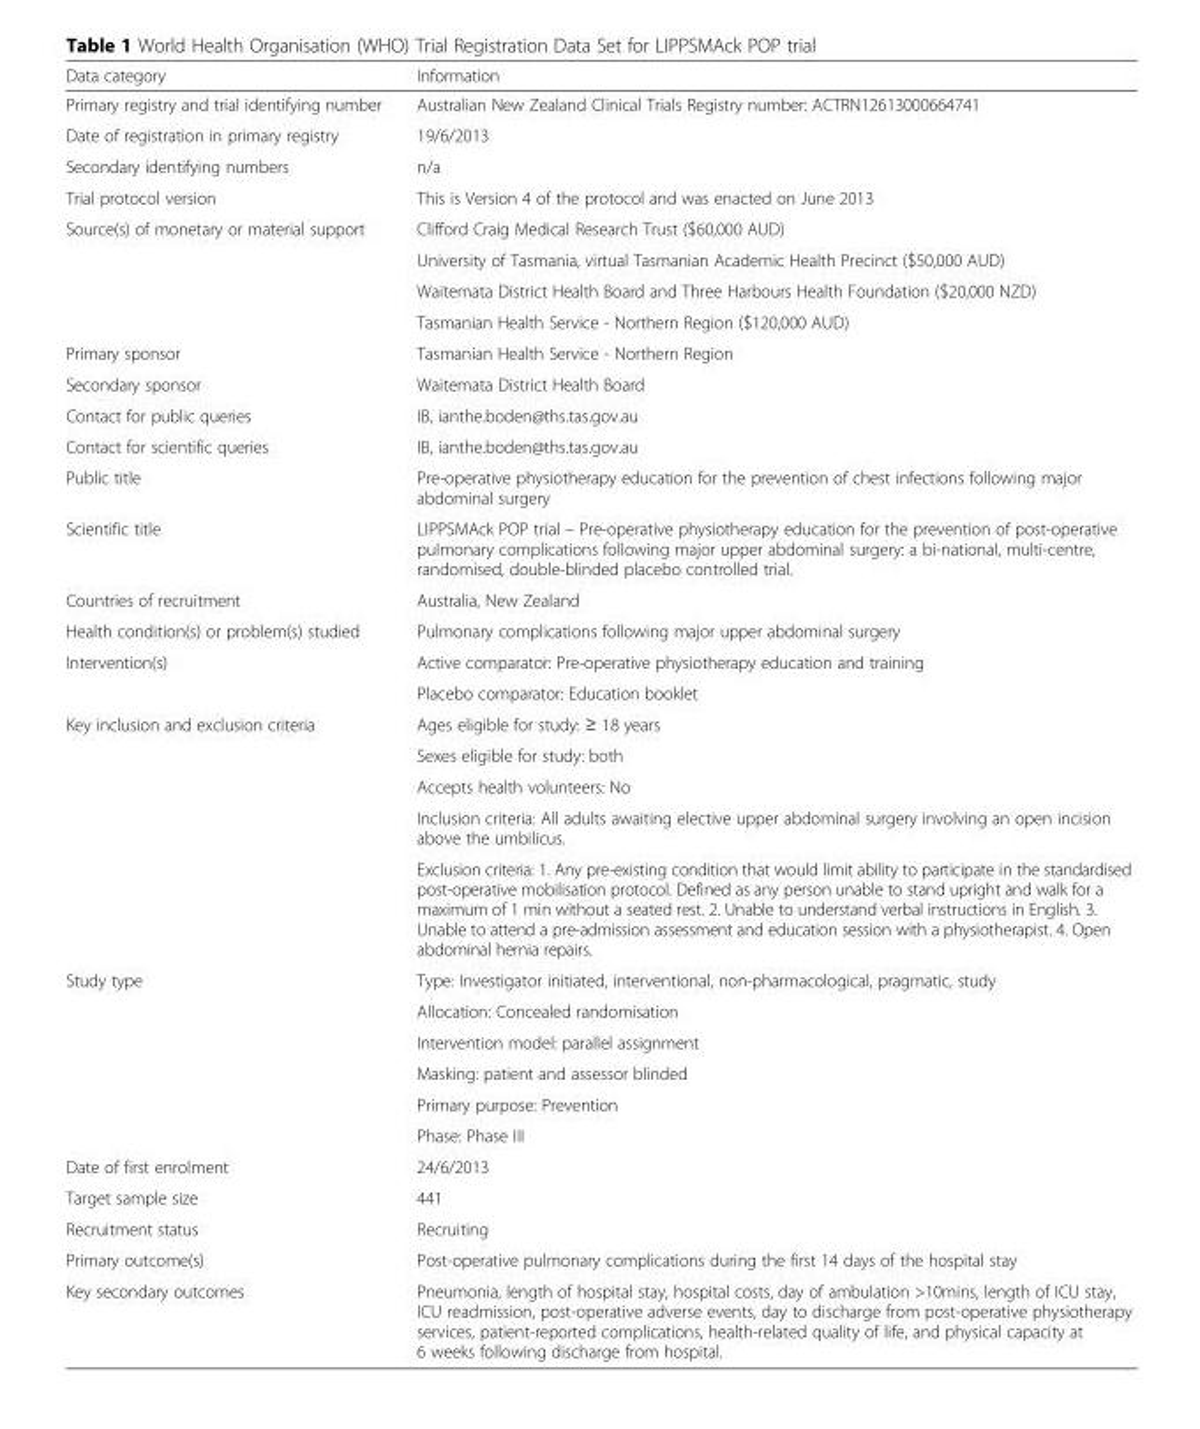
<table><thead><tr><td>Data category</td><td>Information</td></tr></thead><tbody><tr><td>Primary registry and trial identifying number</td><td>Australian New Zealand Clinical Trials Registry number: ACTRN12613000664741</td></tr><tr><td>Date of registration in primary registry</td><td>19/6/2013</td></tr><tr><td>Secondary identifying numbers</td><td>n/a</td></tr><tr><td>Trial protocol version</td><td>This is Version 4 of the protocol and was enacted on June 2013</td></tr><tr><td rowspan="4">Source(s) of monetary or material support</td><td>Clifford Craig Medical Research Trust ($60,000 AUD)</td></tr><tr><td>University of Tasmania, virtual Tasmanian Academic Health Precinct ($50,000 AUD)</td></tr><tr><td>Waitemata District Health Board and Three Harbours Health Foundation ($20,000 NZD)</td></tr><tr><td>Tasmanian Health Service - Northern Region ($120,000 AUD)</td></tr><tr><td>Primary sponsor</td><td>Tasmanian Health Service - Northern Region</td></tr><tr><td>Secondary sponsor</td><td>Waitemata District Health Board</td></tr><tr><td>Contact for public queries</td><td>IB, ianthe.boden@ths.tas.gov.au</td></tr><tr><td>Contact for scientific queries</td><td>IB, ianthe.boden@ths.tas.gov.au</td></tr><tr><td>Public title</td><td>Pre-operative physiotherapy education for the prevention of chest infections following major abdominal surgery</td></tr><tr><td>Scientific title</td><td>LIPPSMAck POP trial – Pre-operative physiotherapy education for the prevention of post-operative pulmonary complications following major upper abdominal surgery: a bi-national, multi-centre, randomised, double-blinded placebo controlled trial.</td></tr><tr><td>Countries of recruitment</td><td>Australia, New Zealand</td></tr><tr><td>Health condition(s) or problem(s) studied</td><td>Pulmonary complications following major upper abdominal surgery</td></tr><tr><td rowspan="2">Intervention(s)</td><td>Active comparator: Pre-operative physiotherapy education and training</td></tr><tr><td>Placebo comparator: Education booklet</td></tr><tr><td rowspan="5">Key inclusion and exclusion criteria</td><td>Ages eligible for study: ≥ 18 years</td></tr><tr><td>Sexes eligible for study: both</td></tr><tr><td>Accepts health volunteers: No</td></tr><tr><td>Inclusion criteria: All adults awaiting elective upper abdominal surgery involving an open incision above the umbilicus.</td></tr><tr><td>Exclusion criteria: 1. Any pre-existing condition that would limit ability to participate in the standardised post-operative mobilisation protocol. Defined as any person unable to stand upright and walk for a maximum of 1 min without a seated rest. 2. Unable to understand verbal instructions in English. 3. Unable to attend a pre-admission assessment and education session with a physiotherapist. 4. Open abdominal hernia repairs.</td></tr><tr><td rowspan="6">Study type</td><td>Type: Investigator initiated, interventional, non-pharmacological, pragmatic, study</td></tr><tr><td>Allocation: Concealed randomisation</td></tr><tr><td>Intervention model: parallel assignment</td></tr><tr><td>Masking: patient and assessor blinded</td></tr><tr><td>Primary purpose: Prevention</td></tr><tr><td>Phase: Phase III</td></tr><tr><td>Date of first enrolment</td><td>24/6/2013</td></tr><tr><td>Target sample size</td><td>441</td></tr><tr><td>Recruitment status</td><td>Recruiting</td></tr><tr><td>Primary outcome(s)</td><td>Post-operative pulmonary complications during the first 14 days of the hospital stay</td></tr><tr><td>Key secondary outcomes</td><td>Pneumonia, length of hospital stay, hospital costs, day of ambulation &gt;10mins, length of ICU stay, ICU readmission, post-operative adverse events, day to discharge from post-operative physiotherapy services, patient-reported complications, health-related quality of life, and physical capacity at 6 weeks following discharge from hospital.</td></tr></tbody></table>